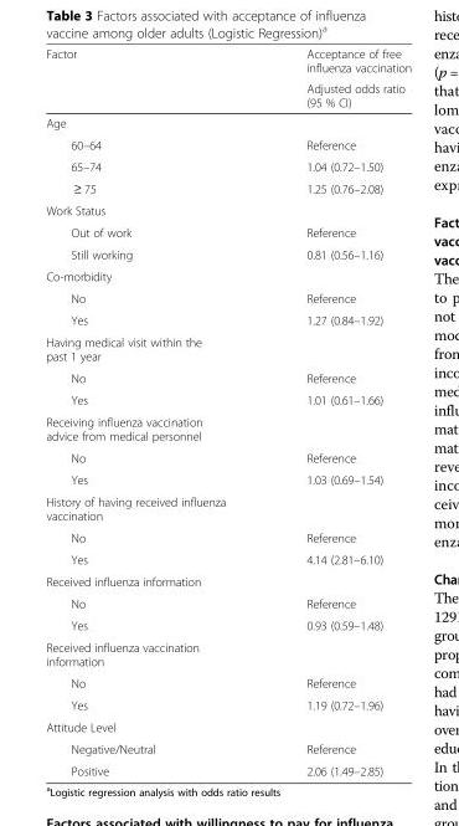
<table><thead><tr><td rowspan="2">Factor</td><td rowspan="2">Acceptance of free influenza vaccination Adjusted odds ratio (95 % CI)</td></tr><tr></tr></thead><tbody><tr><td colspan="2">Age</td></tr><tr><td>60–64</td><td>Reference</td></tr><tr><td>65–74</td><td>1.04 (0.72–1.50)</td></tr><tr><td>≥ 75</td><td>1.25 (0.76–2.08)</td></tr><tr><td colspan="2">Work Status</td></tr><tr><td>Out of work</td><td>Reference</td></tr><tr><td>Still working</td><td>0.81 (0.56–1.16)</td></tr><tr><td colspan="2">Co-morbidity</td></tr><tr><td>No</td><td>Reference</td></tr><tr><td>Yes</td><td>1.27 (0.84–1.92)</td></tr><tr><td colspan="2">Having medical visit within the past 1 year</td></tr><tr><td>No</td><td>Reference</td></tr><tr><td>Yes</td><td>1.01 (0.61–1.66)</td></tr><tr><td colspan="2">Receiving influenza vaccination advice from medical personnel</td></tr><tr><td>No</td><td>Reference</td></tr><tr><td>Yes</td><td>1.03 (0.69–1.54)</td></tr><tr><td colspan="2">History of having received influenza vaccination</td></tr><tr><td>No</td><td>Reference</td></tr><tr><td>Yes</td><td>4.14 (2.81–6.10)</td></tr><tr><td colspan="2">Received influenza information</td></tr><tr><td>No</td><td>Reference</td></tr><tr><td>Yes</td><td>0.93 (0.59–1.48)</td></tr><tr><td colspan="2">Received influenza vaccination information</td></tr><tr><td>No</td><td>Reference</td></tr><tr><td>Yes</td><td>1.19 (0.72–1.96)</td></tr><tr><td colspan="2">Attitude Level</td></tr><tr><td>Negative/Neutral</td><td>Reference</td></tr><tr><td>Positive</td><td>2.06 (1.49–2.85)</td></tr></tbody></table>